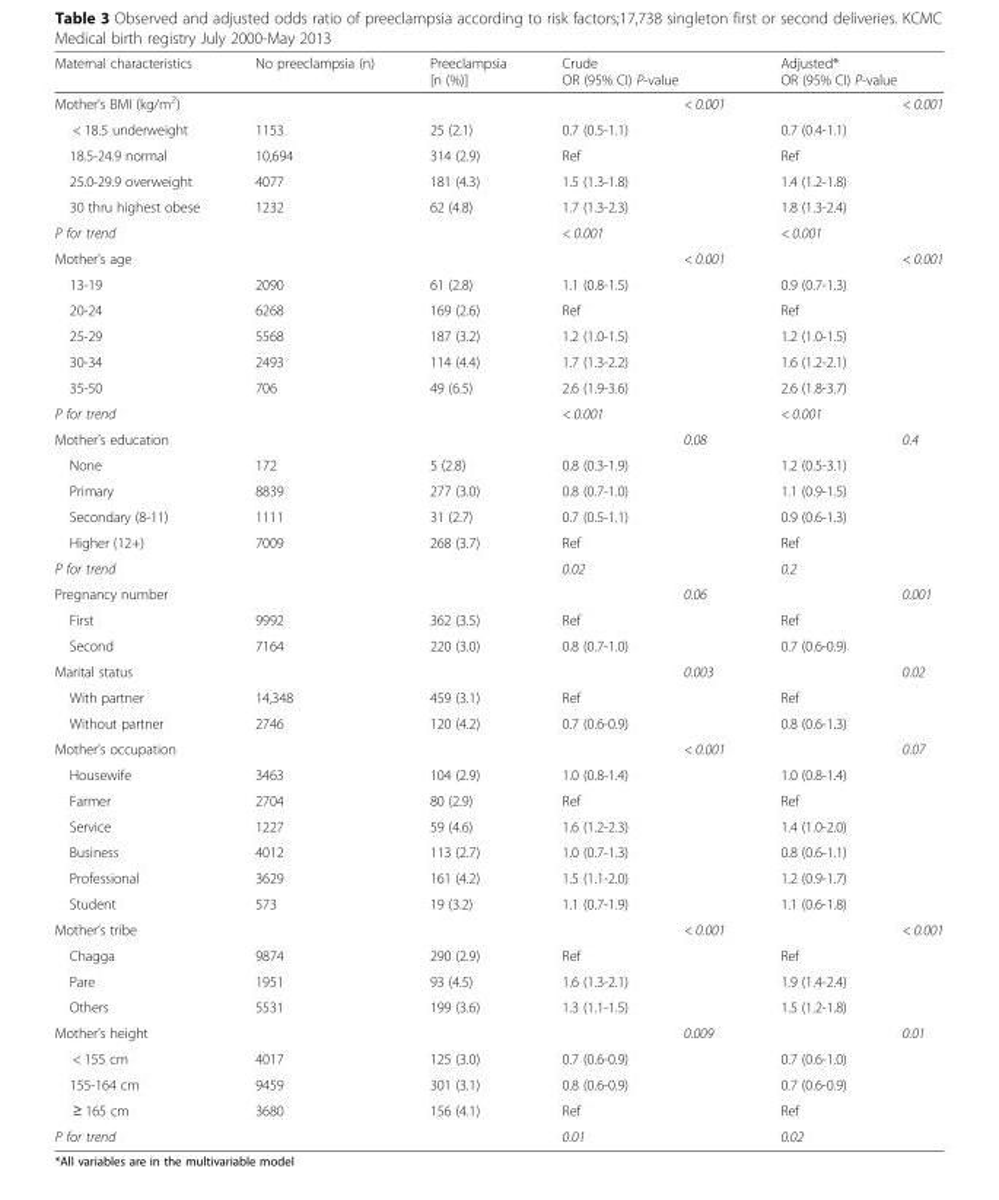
<table><thead><tr><td rowspan="2">Maternal characteristics Mother’s BMI (kg/m<sup>2</sup>)</td><td rowspan="2">No preeclampsia (n)</td><td rowspan="2">Preeclampsia [n (%)]</td><td colspan="2">Crude OR (95% CI) P-value</td><td colspan="2">Adjusted* OR (95% CI) P-value</td></tr><tr><td></td><td>&lt; 0.001</td><td></td><td>&lt; 0.001</td></tr></thead><tbody><tr><td>&lt; 18.5 underweight</td><td>1153</td><td>25 (2.1)</td><td>0.7 (0.5-1.1)</td><td></td><td>0.7 (0.4-1.1)</td><td></td></tr><tr><td>18.5-24.9 normal</td><td>10,694</td><td>314 (2.9)</td><td>Ref</td><td></td><td>Ref</td><td></td></tr><tr><td>25.0-29.9 overweight</td><td>4077</td><td>181 (4.3)</td><td>1.5 (1.3-1.8)</td><td></td><td>1.4 (1.2-1.8)</td><td></td></tr><tr><td>30 thru highest obese</td><td>1232</td><td>62 (4.8)</td><td>1.7 (1.3-2.3)</td><td></td><td>1.8 (1.3-2.4)</td><td></td></tr><tr><td colspan="2">P for trend</td><td></td><td>&lt; 0.001</td><td></td><td>&lt; 0.001</td><td></td></tr><tr><td>Mother’s age</td><td></td><td></td><td></td><td>&lt; 0.001</td><td></td><td>&lt; 0.001</td></tr><tr><td>13-19</td><td>2090</td><td>61 (2.8)</td><td>1.1 (0.8-1.5)</td><td></td><td>0.9 (0.7-1.3)</td><td></td></tr><tr><td>20-24</td><td>6268</td><td>169 (2.6)</td><td>Ref</td><td></td><td>Ref</td><td></td></tr><tr><td>25-29</td><td>5568</td><td>187 (3.2)</td><td>1.2 (1.0-1.5)</td><td></td><td>1.2 (1.0-1.5)</td><td></td></tr><tr><td>30-34</td><td>2493</td><td>114 (4.4)</td><td>1.7 (1.3-2.2)</td><td></td><td>1.6 (1.2-2.1)</td><td></td></tr><tr><td>35-50</td><td>706</td><td>49 (6.5)</td><td>2.6 (1.9-3.6)</td><td></td><td>2.6 (1.8-3.7)</td><td></td></tr><tr><td colspan="2">P for trend</td><td></td><td>&lt; 0.001</td><td></td><td>&lt; 0.001</td><td></td></tr><tr><td>Mother’s education</td><td></td><td></td><td></td><td>0.08</td><td></td><td>0.4</td></tr><tr><td>None</td><td>172</td><td>5 (2.8)</td><td>0.8 (0.3-1.9)</td><td></td><td>1.2 (0.5-3.1)</td><td></td></tr><tr><td>Primary</td><td>8839</td><td>277 (3.0)</td><td>0.8 (0.7-1.0)</td><td></td><td>1.1 (0.9-1.5)</td><td></td></tr><tr><td>Secondary (8-11)</td><td>1111</td><td>31 (2.7)</td><td>0.7 (0.5-1.1)</td><td></td><td>0.9 (0.6-1.3)</td><td></td></tr><tr><td>Higher (12+)</td><td>7009</td><td>268 (3.7)</td><td>Ref</td><td></td><td>Ref</td><td></td></tr><tr><td colspan="2">P for trend</td><td></td><td>0.02</td><td></td><td>0.2</td><td></td></tr><tr><td>Pregnancy number</td><td></td><td></td><td></td><td>0.06</td><td></td><td>0.001</td></tr><tr><td>First</td><td>9992</td><td>362 (3.5)</td><td>Ref</td><td></td><td>Ref</td><td></td></tr><tr><td>Second</td><td>7164</td><td>220 (3.0)</td><td>0.8 (0.7-1.0)</td><td></td><td>0.7 (0.6-0.9)</td><td></td></tr><tr><td>Marital status</td><td></td><td></td><td></td><td>0.003</td><td></td><td>0.02</td></tr><tr><td>With partner</td><td>14,348</td><td>459 (3.1)</td><td>Ref</td><td></td><td>Ref</td><td></td></tr><tr><td>Without partner</td><td>2746</td><td>120 (4.2)</td><td>0.7 (0.6-0.9)</td><td></td><td>0.8 (0.6-1.3)</td><td></td></tr><tr><td>Mother’s occupation</td><td></td><td></td><td></td><td>&lt; 0.001</td><td></td><td>0.07</td></tr><tr><td>Housewife</td><td>3463</td><td>104 (2.9)</td><td>1.0 (0.8-1.4)</td><td></td><td>1.0 (0.8-1.4)</td><td></td></tr><tr><td>Farmer</td><td>2704</td><td>80 (2.9)</td><td>Ref</td><td></td><td>Ref</td><td></td></tr><tr><td>Service</td><td>1227</td><td>59 (4.6)</td><td>1.6 (1.2-2.3)</td><td></td><td>1.4 (1.0-2.0)</td><td></td></tr><tr><td>Business</td><td>4012</td><td>113 (2.7)</td><td>1.0 (0.7-1.3)</td><td></td><td>0.8 (0.6-1.1)</td><td></td></tr><tr><td>Professional</td><td>3629</td><td>161 (4.2)</td><td>1.5 (1.1-2.0)</td><td></td><td>1.2 (0.9-1.7)</td><td></td></tr><tr><td>Student</td><td>573</td><td>19 (3.2)</td><td>1.1 (0.7-1.9)</td><td></td><td>1.1 (0.6-1.8)</td><td></td></tr><tr><td>Mother’s tribe</td><td></td><td></td><td></td><td>&lt; 0.001</td><td></td><td>&lt; 0.001</td></tr><tr><td>Chagga</td><td>9874</td><td>290 (2.9)</td><td>Ref</td><td></td><td>Ref</td><td></td></tr><tr><td>Pare</td><td>1951</td><td>93 (4.5)</td><td>1.6 (1.3-2.1)</td><td></td><td>1.9 (1.4-2.4)</td><td></td></tr><tr><td>Others</td><td>5531</td><td>199 (3.6)</td><td>1.3 (1.1-1.5)</td><td></td><td>1.5 (1.2-1.8)</td><td></td></tr><tr><td>Mother’s height</td><td></td><td></td><td></td><td>0.009</td><td></td><td>0.01</td></tr><tr><td>&lt; 155 cm</td><td>4017</td><td>125 (3.0)</td><td>0.7 (0.6-0.9)</td><td></td><td>0.7 (0.6-1.0)</td><td></td></tr><tr><td>155-164 cm</td><td>9459</td><td>301 (3.1)</td><td>0.8 (0.6-0.9)</td><td></td><td>0.7 (0.6-0.9)</td><td></td></tr><tr><td>≥ 165 cm</td><td>3680</td><td>156 (4.1)</td><td>Ref</td><td></td><td>Ref</td><td></td></tr><tr><td colspan="2">P for trend</td><td></td><td>0.01</td><td></td><td>0.02</td><td></td></tr></tbody></table>